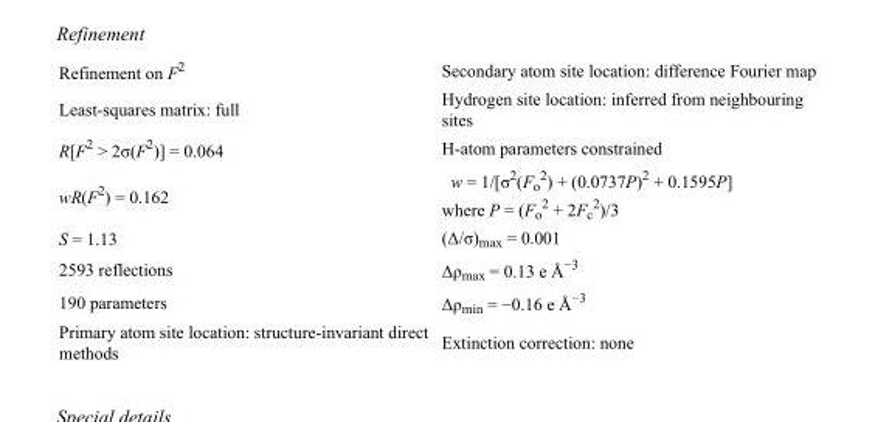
<table><tbody><tr><td>Refinement on F<sup>2</sup></td><td>Secondary atom site location: difference Fourier map</td></tr><tr><td>Least-squares matrix: full</td><td>Hydrogen site location: inferred from neighbouring sites</td></tr><tr><td>R[F<sup>2</sup> &gt; 2σ(F<sup>2</sup>)] = 0.064</td><td>H-atom parameters constrained</td></tr><tr><td>wR(F<sup>2</sup>) = 0.162</td><td>w = 1/[σ<sup>2</sup>(F<sub>o</sub> <sup>2</sup>) + (0.0737P)<sup>2</sup> + 0.1595P] where P = (F<sub>o</sub> <sup>2</sup> + 2F<sub>c</sub> <sup>2</sup>)/3</td></tr><tr><td>S = 1.13</td><td>(Δ/σ)<sub>max</sub> = 0.001</td></tr><tr><td>2593 reflections</td><td>Δρ<sub>max</sub> = 0.13 e Å<sup>−3</sup></td></tr><tr><td>190 parameters</td><td>Δρ<sub>min</sub> = −0.16 e Å<sup>−3</sup></td></tr><tr><td>Primary atom site location: structure-invariant direct methods</td><td>Extinction correction: none</td></tr></tbody></table>